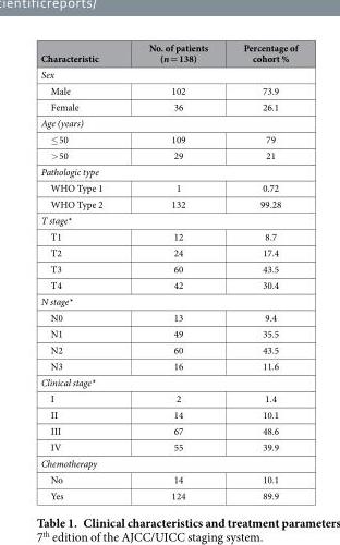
<table><thead><tr><td>Characteristic</td><td>No. of patients (n = 138)</td><td>Percentage of cohort %</td></tr></thead><tbody><tr><td colspan="3">Sex</td></tr><tr><td>Male</td><td>102</td><td>73.9</td></tr><tr><td>Female</td><td>36</td><td>26.1</td></tr><tr><td colspan="3">Age (years)</td></tr><tr><td>≤ 50</td><td>109</td><td>79</td></tr><tr><td>&gt; 50</td><td>29</td><td>21</td></tr><tr><td colspan="3">Pathologic type</td></tr><tr><td>WHO Type 1</td><td>1</td><td>0.72</td></tr><tr><td>WHO Type 2</td><td>132</td><td>99.28</td></tr><tr><td colspan="3">T stage*</td></tr><tr><td>T1</td><td>12</td><td>8.7</td></tr><tr><td>T2</td><td>24</td><td>17.4</td></tr><tr><td>T3</td><td>60</td><td>43.5</td></tr><tr><td>T4</td><td>42</td><td>30.4</td></tr><tr><td colspan="3">N stage*</td></tr><tr><td>N0</td><td>13</td><td>9.4</td></tr><tr><td>N1</td><td>49</td><td>35.5</td></tr><tr><td>N2</td><td>60</td><td>43.5</td></tr><tr><td>N3</td><td>16</td><td>11.6</td></tr><tr><td colspan="3">Clinical stage*</td></tr><tr><td>I</td><td>2</td><td>1.4</td></tr><tr><td>II</td><td>14</td><td>10.1</td></tr><tr><td>III</td><td>67</td><td>48.6</td></tr><tr><td>IV</td><td>55</td><td>39.9</td></tr><tr><td colspan="3">Chemotherapy</td></tr><tr><td>No</td><td>14</td><td>10.1</td></tr><tr><td>Yes</td><td>124</td><td>89.9</td></tr></tbody></table>